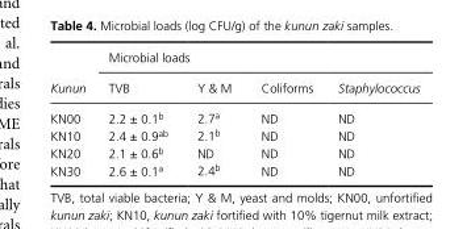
<table><thead><tr><td rowspan="2">Kunun</td><td colspan="4">Microbial loads</td></tr><tr><td>TVB</td><td>Y &amp; M</td><td>Coliforms</td><td>Staphylococcus</td></tr></thead><tbody><tr><td>KN00</td><td>2.2 ± 0.1<sup>b</sup></td><td>2.7<sup>a</sup></td><td>ND</td><td>ND</td></tr><tr><td>KN10</td><td>2.4 ± 0.9<sup>ab</sup></td><td>2.1<sup>b</sup></td><td>ND</td><td>ND</td></tr><tr><td>KN20</td><td>2.1 ± 0.6<sup>b</sup></td><td>ND</td><td>ND</td><td>ND</td></tr><tr><td>KN30</td><td>2.6 ± 0.1<sup>a</sup></td><td>2.4<sup>b</sup></td><td>ND</td><td>ND</td></tr></tbody></table>